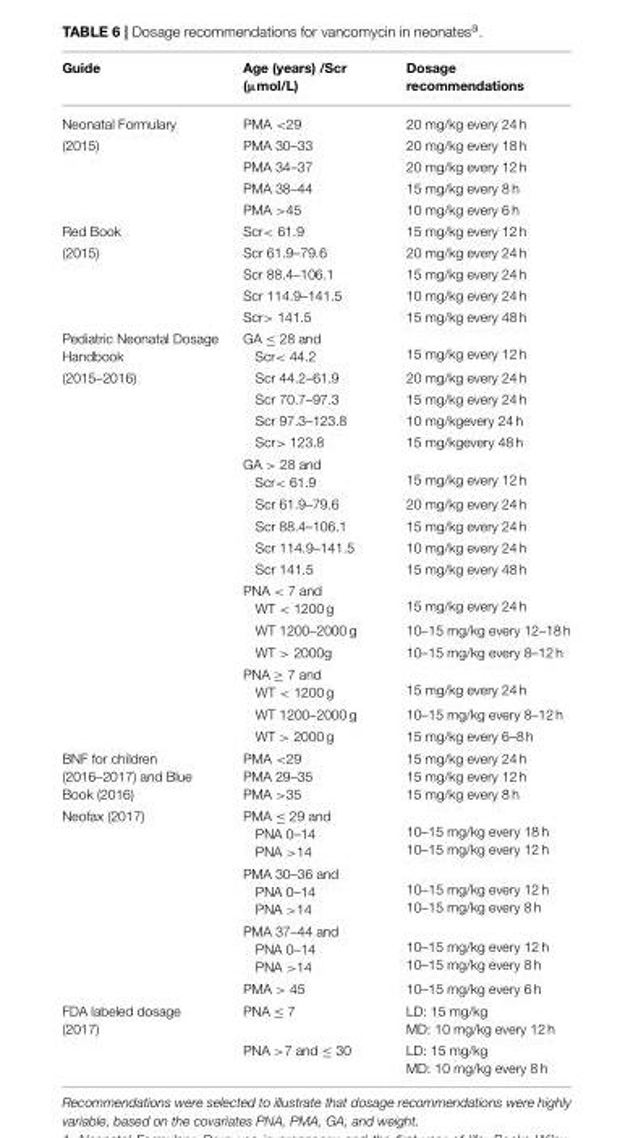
<table><thead><tr><td>Guide</td><td>Age (years) /Scr (µmol/L)</td><td>Dosage recommendations</td></tr></thead><tbody><tr><td>Neonatal Formulary</td><td>PMA &lt;29</td><td>20 mg/kg every 24 h</td></tr><tr><td rowspan="4">(2015)</td><td>PMA 30–33</td><td>20 mg/kg every 18 h</td></tr><tr><td>PMA 34–37</td><td>20 mg/kg every 12 h</td></tr><tr><td>PMA 38–44</td><td>15 mg/kg every 8 h</td></tr><tr><td>PMA &gt;45</td><td>10 mg/kg every 6 h</td></tr><tr><td>Red Book</td><td>Scr&lt; 61.9</td><td>15 mg/kg every 12 h</td></tr><tr><td rowspan="4">(2015)</td><td>Scr 61.9–79.6</td><td>20 mg/kg every 24 h</td></tr><tr><td>Scr 88.4–106.1</td><td>15 mg/kg every 24 h</td></tr><tr><td>Scr 114.9–141.5</td><td>10 mg/kg every 24 h</td></tr><tr><td>Scr&gt; 141.5</td><td>15 mg/kg every 48 h</td></tr><tr><td>Pediatric Neonatal Dosage Handbook</td><td>GA ≤ 28 and Scr&lt; 44.2</td><td>15 mg/kg every 12 h</td></tr><tr><td rowspan="15">(2015–2016)</td><td>Scr 44.2–61.9</td><td>20 mg/kg every 24 h</td></tr><tr><td>Scr 70.7–97.3</td><td>15 mg/kg every 24 h</td></tr><tr><td>Scr 97.3–123.8</td><td>10 mg/kgevery 24 h</td></tr><tr><td>Scr&gt; 123.8</td><td>15 mg/kgevery 48 h</td></tr><tr><td>GA &gt; 28 and Scr&lt; 61.9</td><td>15 mg/kg every 12 h</td></tr><tr><td>Scr 61.9–79.6</td><td>20 mg/kg every 24 h</td></tr><tr><td>Scr 88.4–106.1</td><td>15 mg/kg every 24 h</td></tr><tr><td>Scr 114.9–141.5</td><td>10 mg/kg every 24 h</td></tr><tr><td>Scr 141.5</td><td>15 mg/kg every 48 h</td></tr><tr><td>PNA &lt; 7 and WT &lt; 1200 g</td><td>15 mg/kg every 24 h</td></tr><tr><td>WT 1200–2000 g</td><td>10–15 mg/kg every 12–18 h</td></tr><tr><td>WT &gt; 2000g</td><td>10–15 mg/kg every 8–12 h</td></tr><tr><td>PNA ≥ 7 and WT &lt; 1200 g</td><td>15 mg/kg every 24 h</td></tr><tr><td>WT 1200–2000 g</td><td>10–15 mg/kg every 8–12 h</td></tr><tr><td>WT &gt; 2000 g</td><td>15 mg/kg every 6–8 h</td></tr><tr><td>BNF for children (2016–2017) and Blue Book (2016)</td><td>PMA &lt;29 PMA 29–35 PMA &gt;35</td><td>15 mg/kg every 24 h 15 mg/kg every 12 h 15 mg/kg every 8 h</td></tr><tr><td rowspan="4">Neofax (2017)</td><td>PMA ≤ 29 and PNA 0–14 PNA &gt;14</td><td>10–15 mg/kg every 18 h 10–15 mg/kg every 12 h</td></tr><tr><td>PMA 30–36 and PNA 0–14 PNA &gt;14</td><td>10–15 mg/kg every 12 h 10–15 mg/kg every 8 h</td></tr><tr><td>PMA 37–44 and PNA 0–14 PNA &gt;14</td><td>10–15 mg/kg every 12 h 10–15 mg/kg every 8 h</td></tr><tr><td>PMA &gt; 45</td><td>10–15 mg/kg every 6 h</td></tr><tr><td rowspan="2">FDA labeled dosage (2017)</td><td>PNA ≤ 7</td><td>LD: 15 mg/kg MD: 10 mg/kg every 12 h</td></tr><tr><td>PNA &gt;7 and ≤ 30</td><td>LD: 15 mg/kg MD: 10 mg/kg every 8 h</td></tr></tbody></table>